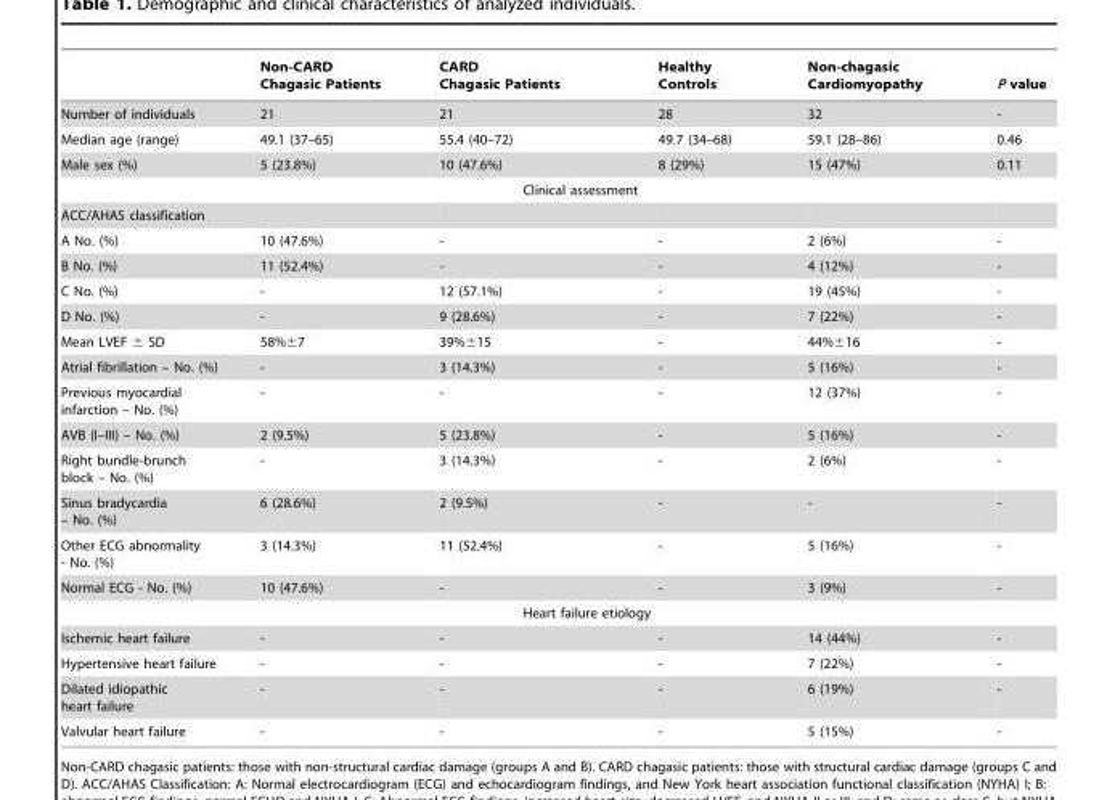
<table><thead><tr><td></td><td>Non-CARD Chagasic Patients</td><td>CARD Chagasic Patients</td><td>Healthy Controls</td><td>Non-chagasic Cardiomyopathy</td><td>P value</td></tr></thead><tbody><tr><td>Number of individuals</td><td>21</td><td>21</td><td>28</td><td>32</td><td>-</td></tr><tr><td>Median age (range)</td><td>49.1 (37–65)</td><td>55.4 (40–72)</td><td>49.7 (34–68)</td><td>59.1 (28–86)</td><td>0.46</td></tr><tr><td rowspan="2">Male sex (%)</td><td>5 (23.8%)</td><td>10 (47.6%)</td><td>8 (29%)</td><td>15 (47%)</td><td>0.11</td></tr><tr><td colspan="5">Clinical assessment</td></tr><tr><td colspan="6">ACC/AHAS classification</td></tr><tr><td>A No. (%)</td><td>10 (47.6%)</td><td>-</td><td>-</td><td>2 (6%)</td><td>-</td></tr><tr><td>B No. (%)</td><td>11 (52.4%)</td><td>-</td><td>-</td><td>4 (12%)</td><td>-</td></tr><tr><td>C No. (%)</td><td>-</td><td>12 (57.1%)</td><td>-</td><td>19 (45%)</td><td>-</td></tr><tr><td>D No. (%)</td><td>-</td><td>9 (28.6%)</td><td>-</td><td>7 (22%)</td><td>-</td></tr><tr><td>Mean LVEF ± SD</td><td>58%±7</td><td>39%±15</td><td>-</td><td>44%±16</td><td>-</td></tr><tr><td>Atrial fibrillation – No. (%)</td><td>-</td><td>3 (14.3%)</td><td>-</td><td>5 (16%)</td><td>-</td></tr><tr><td>Previous myocardial infarction – No. (%)</td><td>-</td><td>-</td><td>-</td><td>12 (37%)</td><td>-</td></tr><tr><td>AVB (I–III) – No. (%)</td><td>2 (9.5%)</td><td>5 (23.8%)</td><td>-</td><td>5 (16%)</td><td>-</td></tr><tr><td>Right bundle-brunch block – No. (%)</td><td>-</td><td>3 (14.3%)</td><td>-</td><td>2 (6%)</td><td>-</td></tr><tr><td>Sinus bradycardia – No. (%)</td><td>6 (28.6%)</td><td>2 (9.5%)</td><td>-</td><td>-</td><td>-</td></tr><tr><td>Other ECG abnormality - No. (%)</td><td>3 (14.3%)</td><td>11 (52.4%)</td><td>-</td><td>5 (16%)</td><td>-</td></tr><tr><td rowspan="2">Normal ECG - No. (%)</td><td>10 (47.6%)</td><td>-</td><td>-</td><td>3 (9%)</td><td>-</td></tr><tr><td colspan="5">Heart failure etiology</td></tr><tr><td>Ischemic heart failure</td><td>-</td><td>-</td><td>-</td><td>14 (44%)</td><td>-</td></tr><tr><td>Hypertensive heart failure</td><td>-</td><td>-</td><td>-</td><td>7 (22%)</td><td>-</td></tr><tr><td>Dilated idiopathic heart failure</td><td>-</td><td>-</td><td>-</td><td>6 (19%)</td><td>-</td></tr><tr><td>Valvular heart failure</td><td>-</td><td>-</td><td>-</td><td>5 (15%)</td><td>-</td></tr></tbody></table>